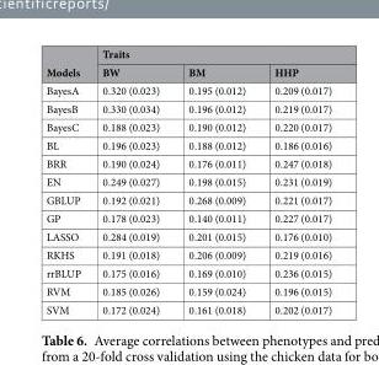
<table><thead><tr><td rowspan="2">Models</td><td colspan="3">Traits</td></tr><tr><td>BW</td><td>BM</td><td>HHP</td></tr></thead><tbody><tr><td>BayesA</td><td>0.320 (0.023)</td><td>0.195 (0.012)</td><td>0.209 (0.017)</td></tr><tr><td>BayesB</td><td>0.330 (0.034)</td><td>0.196 (0.012)</td><td>0.219 (0.017)</td></tr><tr><td>BayesC</td><td>0.188 (0.023)</td><td>0.190 (0.012)</td><td>0.220 (0.017)</td></tr><tr><td>BL</td><td>0.196 (0.023)</td><td>0.188 (0.012)</td><td>0.186 (0.016)</td></tr><tr><td>BRR</td><td>0.190 (0.024)</td><td>0.176 (0.011)</td><td>0.247 (0.018)</td></tr><tr><td>EN</td><td>0.249 (0.027)</td><td>0.198 (0.015)</td><td>0.231 (0.019)</td></tr><tr><td>GBLUP</td><td>0.192 (0.021)</td><td>0.268 (0.009)</td><td>0.221 (0.017)</td></tr><tr><td>GP</td><td>0.178 (0.023)</td><td>0.140 (0.011)</td><td>0.227 (0.017)</td></tr><tr><td>LASSO</td><td>0.284 (0.019)</td><td>0.201 (0.015)</td><td>0.176 (0.010)</td></tr><tr><td>RKHS</td><td>0.191 (0.018)</td><td>0.206 (0.009)</td><td>0.219 (0.016)</td></tr><tr><td>rrBLUP</td><td>0.175 (0.016)</td><td>0.169 (0.010)</td><td>0.236 (0.015)</td></tr><tr><td>RVM</td><td>0.185 (0.026)</td><td>0.159 (0.024)</td><td>0.196 (0.015)</td></tr><tr><td>SVM</td><td>0.172 (0.024)</td><td>0.161 (0.018)</td><td>0.202 (0.017)</td></tr></tbody></table>